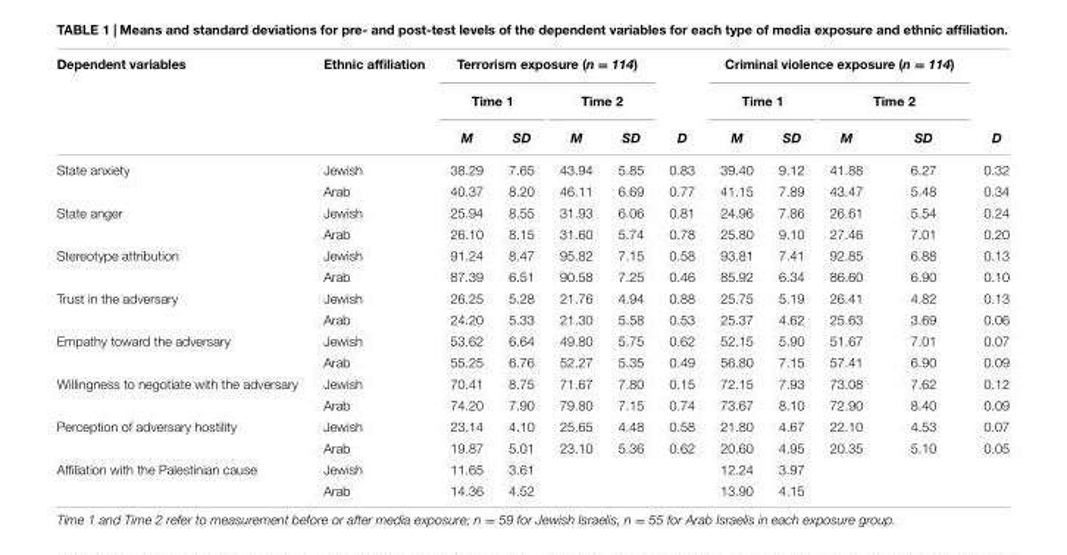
<table><thead><tr><td rowspan="3">Dependent variables</td><td rowspan="3">Ethnic affiliation</td><td colspan="4">Terrorism exposure (n = 114)</td><td rowspan="3">D</td><td colspan="4">Criminal violence exposure (n = 114)</td><td rowspan="3">D</td></tr><tr><td colspan="2">Time 1</td><td colspan="2">Time 2</td><td colspan="2">Time 1</td><td colspan="2">Time 2</td></tr><tr><td>M</td><td>SD</td><td>M</td><td>SD</td><td>M</td><td>SD</td><td>M</td><td>SD</td></tr></thead><tbody><tr><td rowspan="2">State anxiety</td><td>Jewish</td><td>38.29</td><td>7.65</td><td>43.94</td><td>5.85</td><td>0.83</td><td>39.40</td><td>9.12</td><td>41.88</td><td>6.27</td><td>0.32</td></tr><tr><td>Arab</td><td>40.37</td><td>8.20</td><td>46.11</td><td>6.69</td><td>0.77</td><td>41.15</td><td>7.89</td><td>43.47</td><td>5.48</td><td>0.34</td></tr><tr><td rowspan="2">State anger</td><td>Jewish</td><td>25.94</td><td>8.55</td><td>31.93</td><td>6.06</td><td>0.81</td><td>24.96</td><td>7.86</td><td>26.61</td><td>5.54</td><td>0.24</td></tr><tr><td>Arab</td><td>26.10</td><td>8.15</td><td>31.60</td><td>5.74</td><td>0.78</td><td>25.80</td><td>9.10</td><td>27.46</td><td>7.01</td><td>0.20</td></tr><tr><td rowspan="2">Stereotype attribution</td><td>Jewish</td><td>91.24</td><td>8.47</td><td>95.82</td><td>7.15</td><td>0.58</td><td>93.81</td><td>7.41</td><td>92.85</td><td>6.88</td><td>0.13</td></tr><tr><td>Arab</td><td>87.39</td><td>6.51</td><td>90.58</td><td>7.25</td><td>0.46</td><td>85.92</td><td>6.34</td><td>86.60</td><td>6.90</td><td>0.10</td></tr><tr><td rowspan="2">Trust in the adversary</td><td>Jewish</td><td>26.25</td><td>5.28</td><td>21.76</td><td>4.94</td><td>0.88</td><td>25.75</td><td>5.19</td><td>26.41</td><td>4.82</td><td>0.13</td></tr><tr><td>Arab</td><td>24.20</td><td>5.33</td><td>21.30</td><td>5.58</td><td>0.53</td><td>25.37</td><td>4.62</td><td>25.63</td><td>3.69</td><td>0.06</td></tr><tr><td rowspan="2">Empathy toward the adversary</td><td>Jewish</td><td>53.62</td><td>6.64</td><td>49.80</td><td>5.75</td><td>0.62</td><td>52.15</td><td>5.90</td><td>51.67</td><td>7.01</td><td>0.07</td></tr><tr><td>Arab</td><td>55.25</td><td>6.76</td><td>52.27</td><td>5.35</td><td>0.49</td><td>56.80</td><td>7.15</td><td>57.41</td><td>6.90</td><td>0.09</td></tr><tr><td rowspan="2">Willingness to negotiate with the adversary</td><td>Jewish</td><td>70.41</td><td>8.75</td><td>71.67</td><td>7.80</td><td>0.15</td><td>72.15</td><td>7.93</td><td>73.08</td><td>7.62</td><td>0.12</td></tr><tr><td>Arab</td><td>74.20</td><td>7.90</td><td>79.80</td><td>7.15</td><td>0.74</td><td>73.67</td><td>8.10</td><td>72.90</td><td>8.40</td><td>0.09</td></tr><tr><td rowspan="2">Perception of adversary hostility</td><td>Jewish</td><td>23.14</td><td>4.10</td><td>25.65</td><td>4.48</td><td>0.58</td><td>21.80</td><td>4.67</td><td>22.10</td><td>4.53</td><td>0.07</td></tr><tr><td>Arab</td><td>19.87</td><td>5.01</td><td>23.10</td><td>5.36</td><td>0.62</td><td>20.60</td><td>4.95</td><td>20.35</td><td>5.10</td><td>0.05</td></tr><tr><td rowspan="2">Affiliation with the Palestinian cause</td><td>Jewish</td><td>11.65</td><td>3.61</td><td></td><td></td><td></td><td>12.24</td><td>3.97</td><td></td><td></td><td></td></tr><tr><td>Arab</td><td>14.36</td><td>4.52</td><td></td><td></td><td></td><td>13.90</td><td>4.15</td><td></td><td></td><td></td></tr></tbody></table>